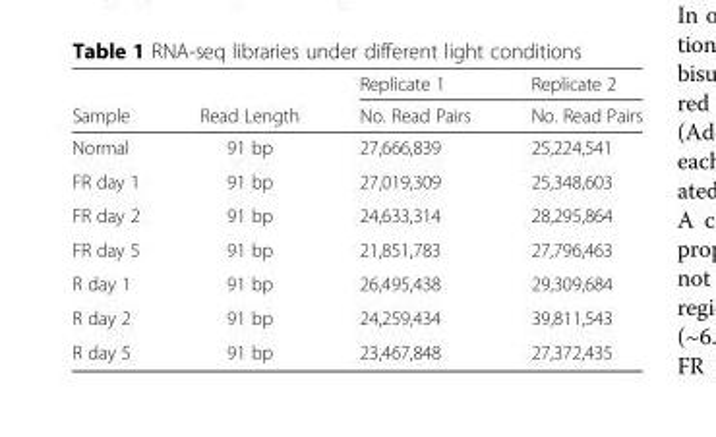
<table><thead><tr><td></td><td></td><td>Replicate 1</td><td>Replicate 2</td></tr></thead><tbody><tr><td>Sample</td><td>Read Length</td><td>No. Read Pairs</td><td>No. Read Pairs</td></tr><tr><td>Normal</td><td>91 bp</td><td>27,666,839</td><td>25,224,541</td></tr><tr><td>FR day 1</td><td>91 bp</td><td>27,019,309</td><td>25,348,603</td></tr><tr><td>FR day 2</td><td>91 bp</td><td>24,633,314</td><td>28,295,864</td></tr><tr><td>FR day 5</td><td>91 bp</td><td>21,851,783</td><td>27,796,463</td></tr><tr><td>R day 1</td><td>91 bp</td><td>26,495,438</td><td>29,309,684</td></tr><tr><td>R day 2</td><td>91 bp</td><td>24,259,434</td><td>39,811,543</td></tr><tr><td>R day 5</td><td>91 bp</td><td>23,467,848</td><td>27,372,435</td></tr></tbody></table>